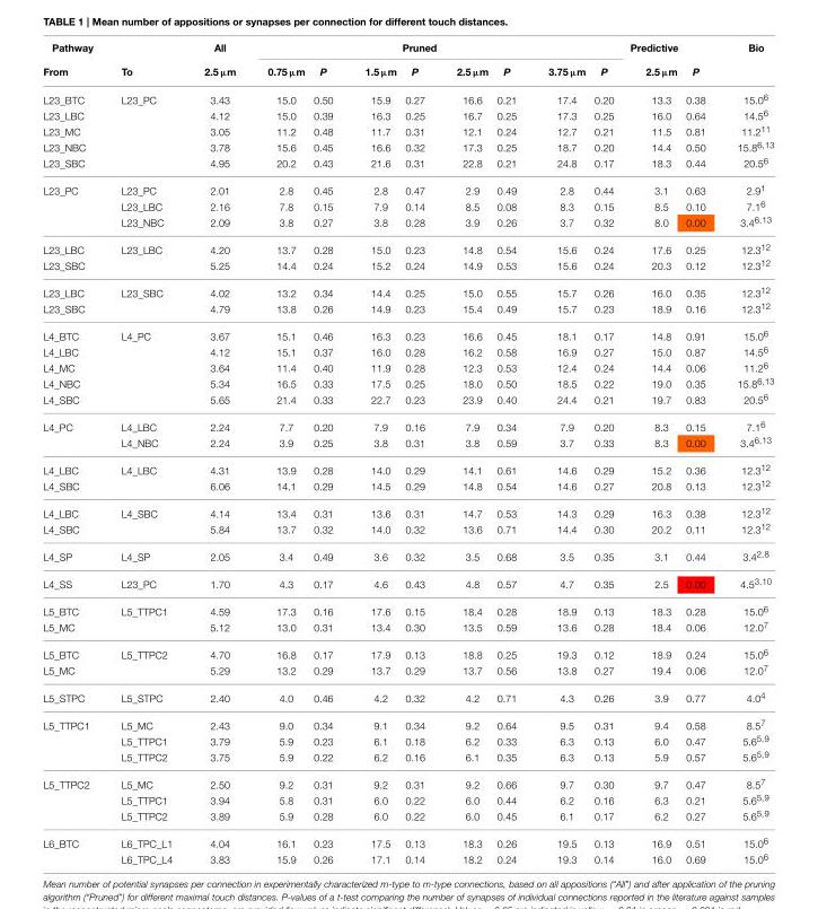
<table><thead><tr><td colspan="2">Pathway</td><td rowspan="2">All 2.5 µm</td><td colspan="8">Pruned</td><td colspan="2">Predictive</td><td rowspan="2">Bio</td></tr><tr><td>From</td><td>To</td><td>0.75 µm</td><td>P</td><td>1.5 µm</td><td>P</td><td>2.5 µm</td><td>P</td><td>3.75 µm</td><td>P</td><td>2.5 µm</td><td>P</td></tr></thead><tbody><tr><td>L23_BTC</td><td>L23_PC</td><td>3.43</td><td>15.0</td><td>0.50</td><td>15.9</td><td>0.27</td><td>16.6</td><td>0.21</td><td>17.4</td><td>0.20</td><td>13.3</td><td>0.38</td><td>15.0<sup>6</sup></td></tr><tr><td>L23_LBC</td><td></td><td>4.12</td><td>15.0</td><td>0.39</td><td>16.3</td><td>0.25</td><td>16.7</td><td>0.25</td><td>17.3</td><td>0.25</td><td>16.0</td><td>0.64</td><td>14.5<sup>6</sup></td></tr><tr><td>L23_MC</td><td></td><td>3.05</td><td>11.2</td><td>0.48</td><td>11.7</td><td>0.31</td><td>12.1</td><td>0.24</td><td>12.7</td><td>0.21</td><td>11.5</td><td>0.81</td><td>11.2<sup>11</sup></td></tr><tr><td>L23_NBC</td><td></td><td>3.78</td><td>15.6</td><td>0.45</td><td>16.6</td><td>0.32</td><td>17.3</td><td>0.25</td><td>18.7</td><td>0.20</td><td>14.4</td><td>0.50</td><td>15.8<sup>6,13</sup></td></tr><tr><td>L23_SBC</td><td></td><td>4.95</td><td>20.2</td><td>0.43</td><td>21.6</td><td>0.31</td><td>22.8</td><td>0.21</td><td>24.8</td><td>0.17</td><td>18.3</td><td>0.44</td><td>20.5<sup>6</sup></td></tr><tr><td rowspan="3">L23_PC</td><td>L23_PC</td><td>2.01</td><td>2.8</td><td>0.45</td><td>2.8</td><td>0.47</td><td>2.9</td><td>0.49</td><td>2.8</td><td>0.44</td><td>3.1</td><td>0.63</td><td>2.9<sup>1</sup></td></tr><tr><td>L23_LBC</td><td>2.16</td><td>7.8</td><td>0.15</td><td>7.9</td><td>0.14</td><td>8.5</td><td>0.08</td><td>8.3</td><td>0.15</td><td>8.5</td><td>0.10</td><td>7.1<sup>6</sup></td></tr><tr><td>L23_NBC</td><td>2.09</td><td>3.8</td><td>0.27</td><td>3.8</td><td>0.28</td><td>3.9</td><td>0.26</td><td>3.7</td><td>0.32</td><td>8.0</td><td>0.00</td><td>3.4<sup>6,13</sup></td></tr><tr><td>L23_LBC</td><td>L23_LBC</td><td>4.20</td><td>13.7</td><td>0.28</td><td>15.0</td><td>0.23</td><td>14.8</td><td>0.54</td><td>15.6</td><td>0.24</td><td>17.6</td><td>0.25</td><td>12.3<sup>12</sup></td></tr><tr><td>L23_SBC</td><td></td><td>5.25</td><td>14.4</td><td>0.24</td><td>15.2</td><td>0.24</td><td>14.9</td><td>0.53</td><td>15.6</td><td>0.24</td><td>20.3</td><td>0.12</td><td>12.3<sup>12</sup></td></tr><tr><td>L23_LBC</td><td>L23_SBC</td><td>4.02</td><td>13.2</td><td>0.34</td><td>14.4</td><td>0.25</td><td>15.0</td><td>0.55</td><td>15.7</td><td>0.26</td><td>16.0</td><td>0.35</td><td>12.3<sup>12</sup></td></tr><tr><td>L23_SBC</td><td></td><td>4.79</td><td>13.8</td><td>0.26</td><td>14.9</td><td>0.23</td><td>15.4</td><td>0.49</td><td>15.7</td><td>0.23</td><td>18.9</td><td>0.16</td><td>12.3<sup>12</sup></td></tr><tr><td>L4_BTC</td><td>L4_PC</td><td>3.67</td><td>15.1</td><td>0.46</td><td>16.3</td><td>0.23</td><td>16.6</td><td>0.45</td><td>18.1</td><td>0.17</td><td>14.8</td><td>0.91</td><td>15.0<sup>6</sup></td></tr><tr><td>L4_LBC</td><td></td><td>4.12</td><td>15.1</td><td>0.37</td><td>16.0</td><td>0.28</td><td>16.2</td><td>0.58</td><td>16.9</td><td>0.27</td><td>15.0</td><td>0.87</td><td>14.5<sup>6</sup></td></tr><tr><td>L4_MC</td><td></td><td>3.64</td><td>11.4</td><td>0.40</td><td>11.9</td><td>0.28</td><td>12.3</td><td>0.53</td><td>12.4</td><td>0.24</td><td>14.4</td><td>0.06</td><td>11.26</td></tr><tr><td>L4_NBC</td><td></td><td>5.34</td><td>16.5</td><td>0.33</td><td>17.5</td><td>0.25</td><td>18.0</td><td>0.50</td><td>18.5</td><td>0.22</td><td>19.0</td><td>0.35</td><td>15.8<sup>6,13</sup></td></tr><tr><td>L4_SBC</td><td></td><td>5.65</td><td>21.4</td><td>0.33</td><td>22.7</td><td>0.23</td><td>23.9</td><td>0.40</td><td>24.4</td><td>0.21</td><td>19.7</td><td>0.83</td><td>20.5<sup>6</sup></td></tr><tr><td rowspan="2">L4_PC</td><td>L4_LBC</td><td>2.24</td><td>7.7</td><td>0.20</td><td>7.9</td><td>0.16</td><td>7.9</td><td>0.34</td><td>7.9</td><td>0.20</td><td>8.3</td><td>0.15</td><td>7.1<sup>6</sup></td></tr><tr><td>L4_NBC</td><td>2.24</td><td>3.9</td><td>0.25</td><td>3.8</td><td>0.31</td><td>3.8</td><td>0.59</td><td>3.7</td><td>0.33</td><td>8.3</td><td>0.00</td><td>3.4<sup>6,13</sup></td></tr><tr><td>L4_LBC</td><td>L4_LBC</td><td>4.31</td><td>13.9</td><td>0.28</td><td>14.0</td><td>0.29</td><td>14.1</td><td>0.61</td><td>14.6</td><td>0.29</td><td>15.2</td><td>0.36</td><td>12.3<sup>12</sup></td></tr><tr><td>L4_SBC</td><td></td><td>6.06</td><td>14.1</td><td>0.29</td><td>14.5</td><td>0.29</td><td>14.8</td><td>0.54</td><td>14.6</td><td>0.27</td><td>20.8</td><td>0.13</td><td>12.3<sup>12</sup></td></tr><tr><td>L4_LBC</td><td>L4_SBC</td><td>4.14</td><td>13.4</td><td>0.31</td><td>13.6</td><td>0.31</td><td>14.7</td><td>0.53</td><td>14.3</td><td>0.29</td><td>16.3</td><td>0.38</td><td>12.3<sup>12</sup></td></tr><tr><td>L4_SBC</td><td></td><td>5.84</td><td>13.7</td><td>0.32</td><td>14.0</td><td>0.32</td><td>13.6</td><td>0.71</td><td>14.4</td><td>0.30</td><td>20.2</td><td>0.11</td><td>12.3<sup>12</sup></td></tr><tr><td>L4_SP</td><td>L4_SP</td><td>2.05</td><td>3.4</td><td>0.49</td><td>3.6</td><td>0.32</td><td>3.5</td><td>0.68</td><td>3.5</td><td>0.35</td><td>3.1</td><td>0.44</td><td>3.4<sup>2,8</sup></td></tr><tr><td>L4_SS</td><td>L23_PC</td><td>1.70</td><td>4.3</td><td>0.17</td><td>4.6</td><td>0.43</td><td>4.8</td><td>0.57</td><td>4.7</td><td>0.35</td><td>2.5</td><td>0.00</td><td>4.53,10</td></tr><tr><td>L5_BTC</td><td>L5_TTPC1</td><td>4.59</td><td>17.3</td><td>0.16</td><td>17.6</td><td>0.15</td><td>18.4</td><td>0.28</td><td>18.9</td><td>0.13</td><td>18.3</td><td>0.28</td><td>15.0<sup>6</sup></td></tr><tr><td>L5_MC</td><td></td><td>5.12</td><td>13.0</td><td>0.31</td><td>13.4</td><td>0.30</td><td>13.5</td><td>0.59</td><td>13.6</td><td>0.28</td><td>18.4</td><td>0.06</td><td>12.0<sup>7</sup></td></tr><tr><td>L5_BTC</td><td>L5_TTPC2</td><td>4.70</td><td>16.8</td><td>0.17</td><td>17.9</td><td>0.13</td><td>18.8</td><td>0.25</td><td>19.3</td><td>0.12</td><td>18.9</td><td>0.24</td><td>15.0<sup>6</sup></td></tr><tr><td>L5_MC</td><td></td><td>5.29</td><td>13.2</td><td>0.29</td><td>13.7</td><td>0.29</td><td>13.7</td><td>0.56</td><td>13.8</td><td>0.27</td><td>19.4</td><td>0.06</td><td>12.0<sup>7</sup></td></tr><tr><td>L5_STPC</td><td>L5_STPC</td><td>2.40</td><td>4.0</td><td>0.46</td><td>4.2</td><td>0.32</td><td>4.2</td><td>0.71</td><td>4.3</td><td>0.26</td><td>3.9</td><td>0.77</td><td>4.0<sup>4</sup></td></tr><tr><td rowspan="3">L5_TTPC1</td><td>L5_MC</td><td>2.43</td><td>9.0</td><td>0.34</td><td>9.1</td><td>0.34</td><td>9.2</td><td>0.64</td><td>9.5</td><td>0.31</td><td>9.4</td><td>0.58</td><td>8.5<sup>7</sup></td></tr><tr><td>L5_TTPC1</td><td>3.79</td><td>5.9</td><td>0.23</td><td>6.1</td><td>0.18</td><td>6.2</td><td>0.33</td><td>6.3</td><td>0.13</td><td>6.0</td><td>0.47</td><td>5.6<sup>5,9</sup></td></tr><tr><td>L5_TTPC2</td><td>3.75</td><td>5.9</td><td>0.22</td><td>6.2</td><td>0.16</td><td>6.1</td><td>0.35</td><td>6.3</td><td>0.13</td><td>5.9</td><td>0.57</td><td>5.6<sup>5,9</sup></td></tr><tr><td rowspan="3">L5_TTPC2</td><td>L5_MC</td><td>2.50</td><td>9.2</td><td>0.31</td><td>9.2</td><td>0.31</td><td>9.2</td><td>0.66</td><td>9.7</td><td>0.30</td><td>9.7</td><td>0.47</td><td>8.5<sup>7</sup></td></tr><tr><td>L5_TTPC1</td><td>3.94</td><td>5.8</td><td>0.31</td><td>6.0</td><td>0.22</td><td>6.0</td><td>0.44</td><td>6.2</td><td>0.16</td><td>6.3</td><td>0.21</td><td>5.6<sup>5,9</sup></td></tr><tr><td>L5_TTPC2</td><td>3.89</td><td>5.9</td><td>0.28</td><td>6.0</td><td>0.22</td><td>6.0</td><td>0.45</td><td>6.1</td><td>0.17</td><td>6.2</td><td>0.27</td><td>5.6<sup>5,9</sup></td></tr><tr><td rowspan="2">L6_BTC</td><td>L6_TPC_L1</td><td>4.04</td><td>16.1</td><td>0.23</td><td>17.5</td><td>0.13</td><td>18.3</td><td>0.26</td><td>19.5</td><td>0.13</td><td>16.9</td><td>0.51</td><td>15.0<sup>6</sup></td></tr><tr><td>L6_TPC_L4</td><td>3.83</td><td>15.9</td><td>0.26</td><td>17.1</td><td>0.14</td><td>18.2</td><td>0.24</td><td>19.3</td><td>0.14</td><td>16.0</td><td>0.69</td><td>15.0<sup>6</sup></td></tr></tbody></table>